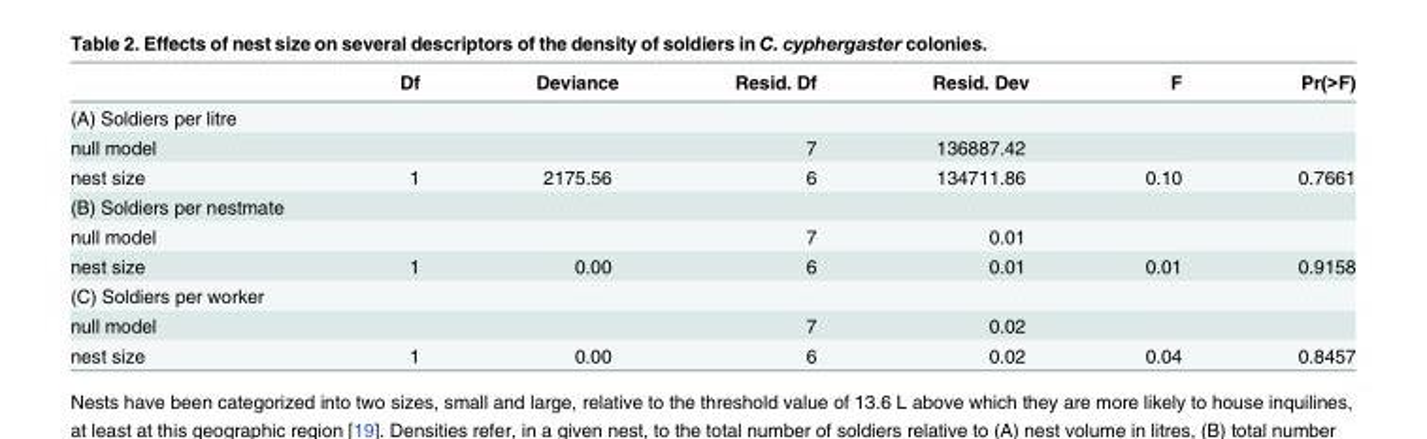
<table><thead><tr><td></td><td>Df</td><td>Deviance</td><td>Resid. Df</td><td>Resid. Dev</td><td>F</td><td>Pr(&gt;F)</td></tr></thead><tbody><tr><td colspan="7">(A) Soldiers per litre</td></tr><tr><td>null model</td><td></td><td></td><td>7</td><td>136887.42</td><td></td><td></td></tr><tr><td>nest size</td><td>1</td><td>2175.56</td><td>6</td><td>134711.86</td><td>0.10</td><td>0.7661</td></tr><tr><td colspan="7">(B) Soldiers per nestmate</td></tr><tr><td>null model</td><td></td><td></td><td>7</td><td>0.01</td><td></td><td></td></tr><tr><td>nest size</td><td>1</td><td>0.00</td><td>6</td><td>0.01</td><td>0.01</td><td>0.9158</td></tr><tr><td colspan="7">(C) Soldiers per worker</td></tr><tr><td>null model</td><td></td><td></td><td>7</td><td>0.02</td><td></td><td></td></tr><tr><td>nest size</td><td>1</td><td>0.00</td><td>6</td><td>0.02</td><td>0.04</td><td>0.8457</td></tr></tbody></table>